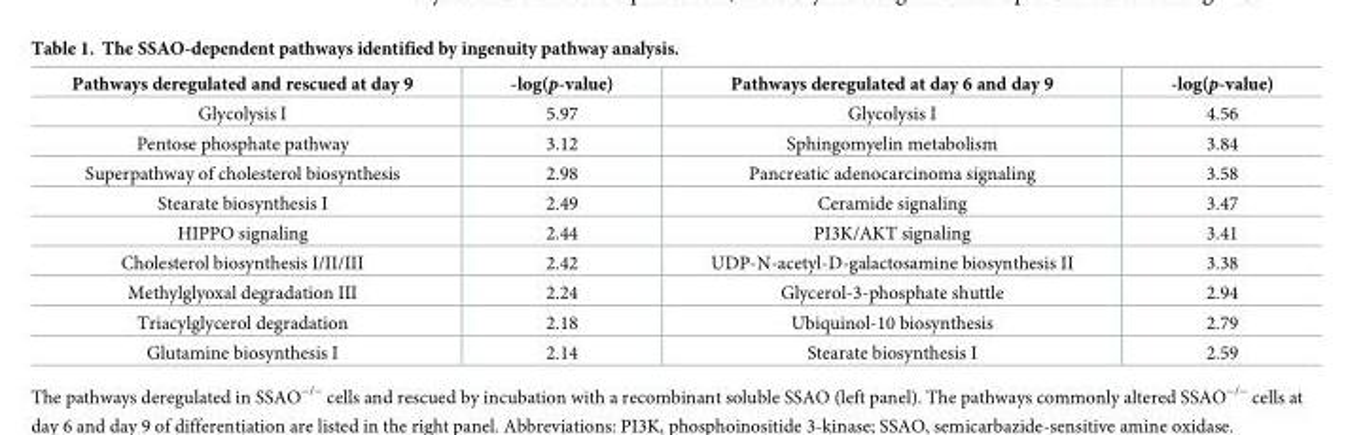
<table><thead><tr><td>Pathways deregulated and rescued at day 9</td><td>-log(p-value)</td><td>Pathways deregulated at day 6 and day 9</td><td>-log(p-value)</td></tr></thead><tbody><tr><td>Glycolysis I</td><td>5.97</td><td>Glycolysis I</td><td>4.56</td></tr><tr><td>Pentose phosphate pathway</td><td>3.12</td><td>Sphingomyelin metabolism</td><td>3.84</td></tr><tr><td>Superpathway of cholesterol biosynthesis</td><td>2.98</td><td>Pancreatic adenocarcinoma signaling</td><td>3.58</td></tr><tr><td>Stearate biosynthesis I</td><td>2.49</td><td>Ceramide signaling</td><td>3.47</td></tr><tr><td>HIPPO signaling</td><td>2.44</td><td>PI3K/AKT signaling</td><td>3.41</td></tr><tr><td>Cholesterol biosynthesis I/II/III</td><td>2.42</td><td>UDP-N-acetyl-D-galactosamine biosynthesis II</td><td>3.38</td></tr><tr><td>Methylglyoxal degradation III</td><td>2.24</td><td>Glycerol-3-phosphate shuttle</td><td>2.94</td></tr><tr><td>Triacylglycerol degradation</td><td>2.18</td><td>Ubiquinol-10 biosynthesis</td><td>2.79</td></tr><tr><td>Glutamine biosynthesis I</td><td>2.14</td><td>Stearate biosynthesis I</td><td>2.59</td></tr></tbody></table>